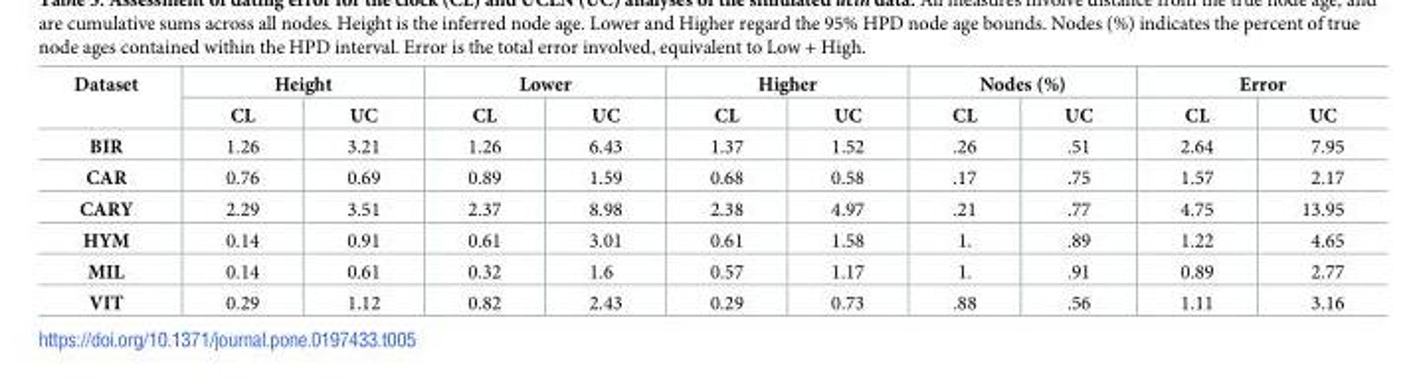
<table><thead><tr><td rowspan="2">Dataset</td><td colspan="2">Height</td><td colspan="2">Lower</td><td colspan="2">Higher</td><td colspan="2">Nodes (%)</td><td colspan="2">Error</td></tr><tr><td>CL</td><td>UC</td><td>CL</td><td>UC</td><td>CL</td><td>UC</td><td>CL</td><td>UC</td><td>CL</td><td>UC</td></tr></thead><tbody><tr><td>BIR</td><td>1.26</td><td>3.21</td><td>1.26</td><td>6.43</td><td>1.37</td><td>1.52</td><td>.26</td><td>.51</td><td>2.64</td><td>7.95</td></tr><tr><td>CAR</td><td>0.76</td><td>0.69</td><td>0.89</td><td>1.59</td><td>0.68</td><td>0.58</td><td>.17</td><td>.75</td><td>1.57</td><td>2.17</td></tr><tr><td>CARY</td><td>2.29</td><td>3.51</td><td>2.37</td><td>8.98</td><td>2.38</td><td>4.97</td><td>.21</td><td>.77</td><td>4.75</td><td>13.95</td></tr><tr><td>HYM</td><td>0.14</td><td>0.91</td><td>0.61</td><td>3.01</td><td>0.61</td><td>1.58</td><td>1.</td><td>.89</td><td>1.22</td><td>4.65</td></tr><tr><td>MIL</td><td>0.14</td><td>0.61</td><td>0.32</td><td>1.6</td><td>0.57</td><td>1.17</td><td>1.</td><td>.91</td><td>0.89</td><td>2.77</td></tr><tr><td>VIT</td><td>0.29</td><td>1.12</td><td>0.82</td><td>2.43</td><td>0.29</td><td>0.73</td><td>.88</td><td>.56</td><td>1.11</td><td>3.16</td></tr></tbody></table>